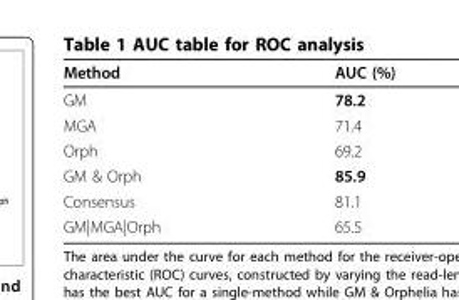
<table><thead><tr><td>Method</td><td>AUC (%)</td></tr></thead><tbody><tr><td>GM</td><td>78.2</td></tr><tr><td>MGA</td><td>71.4</td></tr><tr><td>Orph</td><td>69.2</td></tr><tr><td>GM &amp; Orph</td><td>85.9</td></tr><tr><td>Consensus</td><td>81.1</td></tr><tr><td>GM|MGA|Orph</td><td>65.5</td></tr></tbody></table>